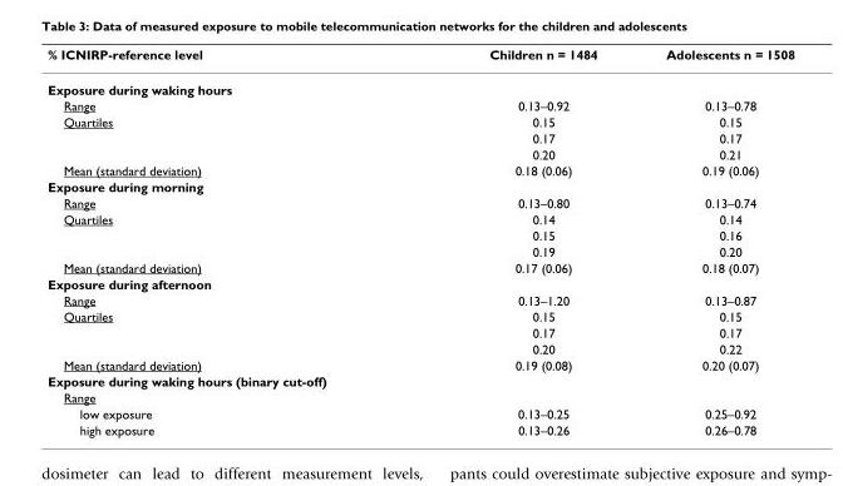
<table><thead><tr><td>% ICNIRP-reference level</td><td>Children n = 1484</td><td>Adolescents n = 1508</td></tr></thead><tbody><tr><td colspan="3">Exposure during waking hours</td></tr><tr><td>Range</td><td>0.13–0.92</td><td>0.13–0.78</td></tr><tr><td rowspan="3">Quartiles</td><td>0.15</td><td>0.15</td></tr><tr><td>0.17</td><td>0.17</td></tr><tr><td>0.20</td><td>0.21</td></tr><tr><td>Mean (standard deviation)</td><td>0.18 (0.06)</td><td>0.19 (0.06)</td></tr><tr><td colspan="3">Exposure during morning</td></tr><tr><td>Range</td><td>0.13–0.80</td><td>0.13–0.74</td></tr><tr><td rowspan="3">Quartiles</td><td>0.14</td><td>0.14</td></tr><tr><td>0.15</td><td>0.16</td></tr><tr><td>0.19</td><td>0.20</td></tr><tr><td>Mean (standard deviation)</td><td>0.17 (0.06)</td><td>0.18 (0.07)</td></tr><tr><td colspan="3">Exposure during afternoon</td></tr><tr><td>Range</td><td>0.13–1.20</td><td>0.13–0.87</td></tr><tr><td rowspan="3">Quartiles</td><td>0.15</td><td>0.15</td></tr><tr><td>0.17</td><td>0.17</td></tr><tr><td>0.20</td><td>0.22</td></tr><tr><td>Mean (standard deviation)</td><td>0.19 (0.08)</td><td>0.20 (0.07)</td></tr><tr><td colspan="3">Exposure during waking hours (binary cut-off)</td></tr><tr><td colspan="3">Range</td></tr><tr><td>low exposure</td><td>0.13–0.25</td><td>0.25–0.92</td></tr><tr><td>high exposure</td><td>0.13–0.26</td><td>0.26–0.78</td></tr></tbody></table>